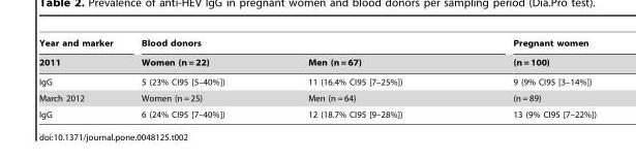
<table><thead><tr><td rowspan="2">Year and marker 2011</td><td colspan="2">Blood donors</td><td rowspan="2">Pregnant women (n = 100)</td></tr><tr><td>Women (n = 22)</td><td>Men (n = 67)</td></tr></thead><tbody><tr><td>IgG</td><td>5 (23% CI95 [5–40%])</td><td>11 (16.4% CI95 [7–25%])</td><td>9 (9% CI95 [3–14%])</td></tr><tr><td>March 2012</td><td>Women (n = 25)</td><td>Men (n = 64)</td><td>(n = 89)</td></tr><tr><td>IgG</td><td>6 (24% CI95 [7–40%])</td><td>12 (18.7% CI95 [9–28%])</td><td>13 (9% CI95 [7–22%])</td></tr></tbody></table>